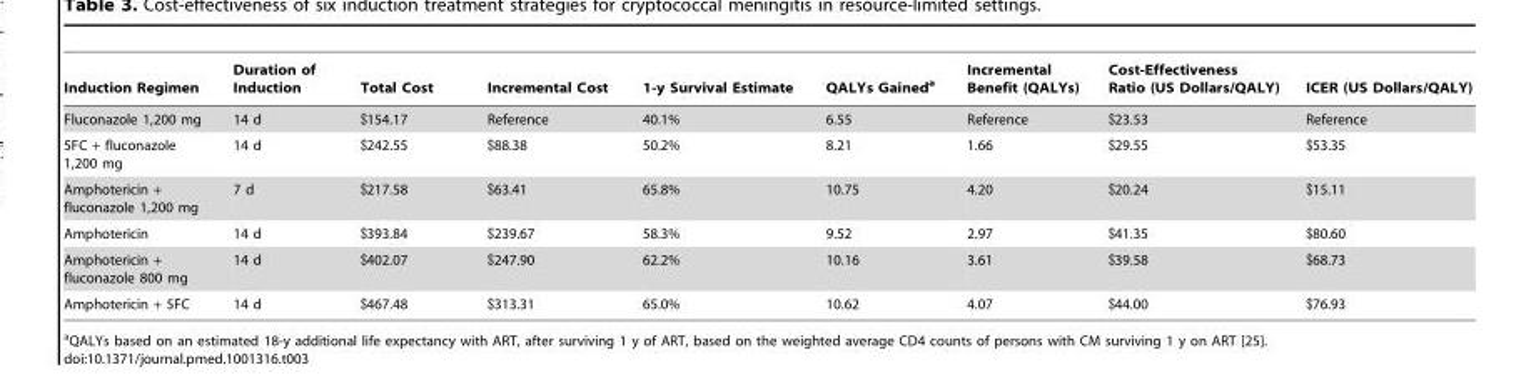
<table><thead><tr><td>Induction Regimen</td><td>Duration of Induction</td><td>Total Cost</td><td>Incremental Cost</td><td>1-y Survival Estimate</td><td>QALYs Gained<sup>a</sup></td><td>Incremental Benefit (QALYs)</td><td>Cost-Effectiveness Ratio (US Dollars/QALY)</td><td>ICER (US Dollars/QALY)</td></tr></thead><tbody><tr><td>Fluconazole 1,200 mg</td><td>14 d</td><td>$154.17</td><td>Reference</td><td>40.1%</td><td>6.55</td><td>Reference</td><td>$23.53</td><td>Reference</td></tr><tr><td>5FC + fluconazole 1,200 mg</td><td>14 d</td><td>$242.55</td><td>$88.38</td><td>50.2%</td><td>8.21</td><td>1.66</td><td>$29.55</td><td>$53.35</td></tr><tr><td>Amphotericin + fluconazole 1,200 mg</td><td>7 d</td><td>$217.58</td><td>$63.41</td><td>65.8%</td><td>10.75</td><td>4.20</td><td>$20.24</td><td>$15.11</td></tr><tr><td>Amphotericin</td><td>14 d</td><td>$393.84</td><td>$239.67</td><td>58.3%</td><td>9.52</td><td>2.97</td><td>$41.35</td><td>$80.60</td></tr><tr><td>Amphotericin + fluconazole 800 mg</td><td>14 d</td><td>$402.07</td><td>$247.90</td><td>62.2%</td><td>10.16</td><td>3.61</td><td>$39.58</td><td>$68.73</td></tr><tr><td>Amphotericin + 5FC</td><td>14 d</td><td>$467.48</td><td>$313.31</td><td>65.0%</td><td>10.62</td><td>4.07</td><td>$44.00</td><td>$76.93</td></tr></tbody></table>